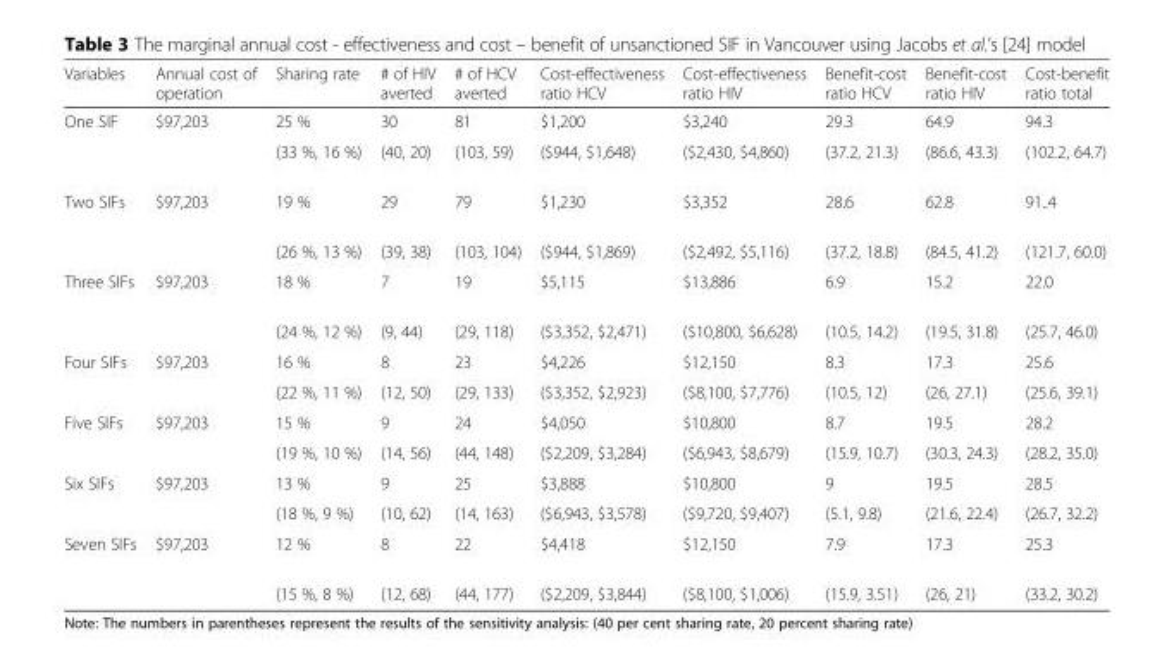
<table><thead><tr><td>Variables</td><td>Annual cost of operation</td><td>Sharing rate</td><td># of HIV averted</td><td># of HCV averted</td><td>Cost-effectiveness ratio HCV</td><td>Cost-effectiveness ratio HIV</td><td>Benefit-cost ratio HCV</td><td>Benefit-cost ratio HIV</td><td>Cost-benefit ratio total</td></tr></thead><tbody><tr><td rowspan="2">One SIF</td><td>$97,203</td><td>25 %</td><td>30</td><td>81</td><td>$1,200</td><td>$3,240</td><td>29.3</td><td>64.9</td><td>94.3</td></tr><tr><td></td><td>(33 %, 16 %)</td><td>(40, 20)</td><td>(103, 59)</td><td>($944, $1,648)</td><td>($2,430, $4,860)</td><td>(37.2, 21.3)</td><td>(86.6, 43.3)</td><td>(102.2, 64.7)</td></tr><tr><td rowspan="2">Two SIFs</td><td>$97,203</td><td>19 %</td><td>29</td><td>79</td><td>$1,230</td><td>$3,352</td><td>28.6</td><td>62.8</td><td>91..4</td></tr><tr><td></td><td>(26 %, 13 %)</td><td>(39, 38)</td><td>(103, 104)</td><td>($944, $1,869)</td><td>($2,492, $5,116)</td><td>(37.2, 18.8)</td><td>(84.5, 41.2)</td><td>(121.7, 60.0)</td></tr><tr><td rowspan="2">Three SIFs</td><td>$97,203</td><td>18 %</td><td>7</td><td>19</td><td>$5,115</td><td>$13,886</td><td>6.9</td><td>15.2</td><td>22.0</td></tr><tr><td></td><td>(24 %, 12 %)</td><td>(9, 44)</td><td>(29, 118)</td><td>($3,352, $2,471)</td><td>($10,800, $6,628)</td><td>(10.5, 14.2)</td><td>(19.5, 31.8)</td><td>(25.7, 46.0)</td></tr><tr><td rowspan="2">Four SIFs</td><td>$97,203</td><td>16 %</td><td>8</td><td>23</td><td>$4,226</td><td>$12,150</td><td>8.3</td><td>17.3</td><td>25.6</td></tr><tr><td></td><td>(22 %, 11 %)</td><td>(12, 50)</td><td>(29, 133)</td><td>($3,352, $2,923)</td><td>($8,100, $7,776)</td><td>(10.5, 12)</td><td>(26, 27.1)</td><td>(25.6, 39.1)</td></tr><tr><td rowspan="2">Five SIFs</td><td>$97,203</td><td>15 %</td><td>9</td><td>24</td><td>$4,050</td><td>$10,800</td><td>8.7</td><td>19.5</td><td>28.2</td></tr><tr><td></td><td>(19 %, 10 %)</td><td>(14, 56)</td><td>(44, 148)</td><td>($2,209, $3,284)</td><td>($6,943, $8,679)</td><td>(15.9, 10.7)</td><td>(30.3, 24.3)</td><td>(28.2, 35.0)</td></tr><tr><td rowspan="2">Six SIFs</td><td>$97,203</td><td>13 %</td><td>9</td><td>25</td><td>$3,888</td><td>$10,800</td><td>9</td><td>19.5</td><td>28.5</td></tr><tr><td></td><td>(18 %, 9 %)</td><td>(10, 62)</td><td>(14, 163)</td><td>($6,943, $3,578)</td><td>($9,720, $9,407)</td><td>(5.1, 9.8)</td><td>(21.6, 22.4)</td><td>(26.7, 32.2)</td></tr><tr><td rowspan="2">Seven SIFs</td><td>$97,203</td><td>12 %</td><td>8</td><td>22</td><td>$4,418</td><td>$12,150</td><td>7.9</td><td>17.3</td><td>25.3</td></tr><tr><td></td><td>(15 %, 8 %)</td><td>(12, 68)</td><td>(44, 177)</td><td>($2,209, $3,844)</td><td>($8,100, $1,006)</td><td>(15.9, 3.51)</td><td>(26, 21)</td><td>(33.2, 30.2)</td></tr></tbody></table>